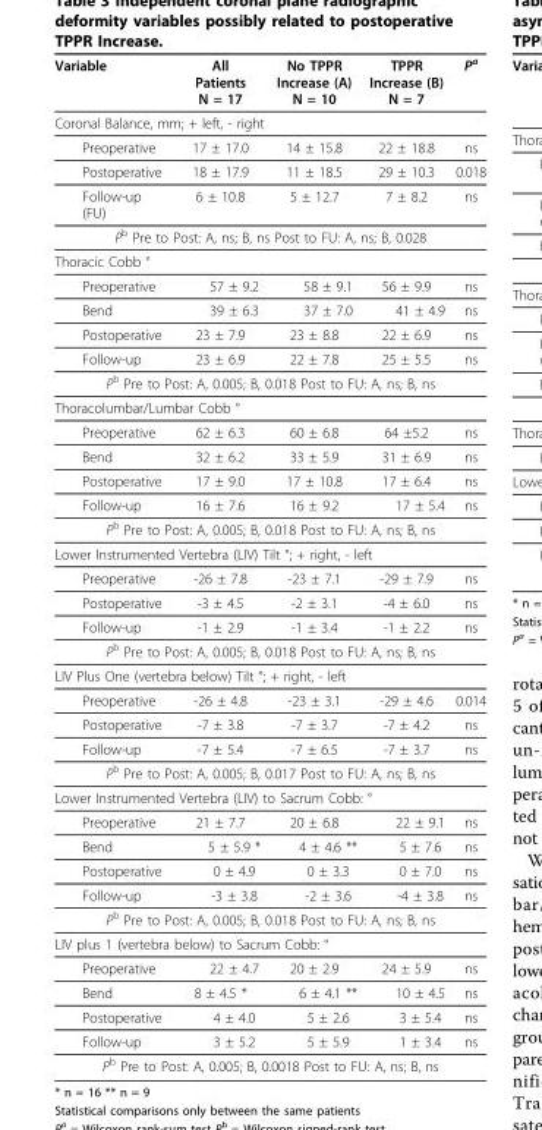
<table><thead><tr><td>Variable</td><td>All Patients N = 17</td><td>No TPPR Increase (A) N = 10</td><td>TPPR Increase (B) N = 7</td><td>P<sup>a</sup></td></tr></thead><tbody><tr><td colspan="5">Coronal Balance, mm; + left, - right</td></tr><tr><td>Preoperative</td><td>17 ± 17.0</td><td>14 ± 15.8</td><td>22 ± 18.8</td><td>ns</td></tr><tr><td>Postoperative</td><td>18 ± 17.9</td><td>11 ± 18.5</td><td>29 ± 10.3</td><td>0.018</td></tr><tr><td>Follow-up (FU)</td><td>6 ± 10.8</td><td>5 ± 12.7</td><td>7 ± 8.2</td><td>ns</td></tr><tr><td colspan="5">P<sup>b</sup> Pre to Post: A, ns; B, ns Post to FU: A, ns; B, 0.028</td></tr><tr><td colspan="5">Thoracic Cobb °</td></tr><tr><td>Preoperative</td><td>57 ± 9.2</td><td>58 ± 9.1</td><td>56 ± 9.9</td><td>ns</td></tr><tr><td>Bend</td><td>39 ± 6.3</td><td>37 ± 7.0</td><td>41 ± 4.9</td><td>ns</td></tr><tr><td>Postoperative</td><td>23 ± 7.9</td><td>23 ± 8.8</td><td>22 ± 6.9</td><td>ns</td></tr><tr><td>Follow-up</td><td>23 ± 6.9</td><td>22 ± 7.8</td><td>25 ± 5.5</td><td>ns</td></tr><tr><td colspan="5">P<sup>b</sup> Pre to Post: A, 0.005; B, 0.018 Post to FU: A, ns; B, ns</td></tr><tr><td colspan="5">Thoracolumbar/Lumbar Cobb °</td></tr><tr><td>Preoperative</td><td>62 ± 6.3</td><td>60 ± 6.8</td><td>64 ±5.2</td><td>ns</td></tr><tr><td>Bend</td><td>32 ± 6.2</td><td>33 ± 5.9</td><td>31 ± 6.9</td><td>ns</td></tr><tr><td>Postoperative</td><td>17 ± 9.0</td><td>17 ± 10.8</td><td>17 ± 6.4</td><td>ns</td></tr><tr><td>Follow-up</td><td>16 ± 7.6</td><td>16 ± 9.2</td><td>17 ± 5.4</td><td>ns</td></tr><tr><td colspan="5">P<sup>b</sup> Pre to Post: A, 0.005; B, 0.018 Post to FU: A, ns; B, ns</td></tr><tr><td colspan="5">Lower Instrumented Vertebra (LIV) Tilt °; + right, - left</td></tr><tr><td>Preoperative</td><td>-26 ± 7.8</td><td>-23 ± 7.1</td><td>-29 ± 7.9</td><td>ns</td></tr><tr><td>Postoperative</td><td>-3 ± 4.5</td><td>-2 ± 3.1</td><td>-4 ± 6.0</td><td>ns</td></tr><tr><td>Follow-up</td><td>-1 ± 2.9</td><td>-1 ± 3.4</td><td>-1 ± 2.2</td><td>ns</td></tr><tr><td colspan="5">P<sup>b</sup> Pre to Post: A, 0.005; B, 0.018 Post to FU: A, ns; B, ns</td></tr><tr><td colspan="5">LIV Plus One (vertebra below) Tilt °; + right, - left</td></tr><tr><td>Preoperative</td><td>-26 ± 4.8</td><td>-23 ± 3.1</td><td>-29 ± 4.6</td><td>0.014</td></tr><tr><td>Postoperative</td><td>-7 ± 3.8</td><td>-7 ± 3.7</td><td>-7 ± 4.2</td><td>ns</td></tr><tr><td>Follow-up</td><td>-7 ± 5.4</td><td>-7 ± 6.5</td><td>-7 ± 3.7</td><td>ns</td></tr><tr><td colspan="5">P<sup>b</sup> Pre to Post: A, 0.005; B, 0.017 Post to FU: A, ns; B, ns</td></tr><tr><td colspan="5">Lower Instrumented Vertebra (LIV) to Sacrum Cobb: °</td></tr><tr><td>Preoperative</td><td>21 ± 7.7</td><td>20 ± 6.8</td><td>22 ± 9.1</td><td>ns</td></tr><tr><td>Bend</td><td>5 ± 5.9 *</td><td>4 ± 4.6 **</td><td>5 ± 7.6</td><td>ns</td></tr><tr><td>Postoperative</td><td>0 ± 4.9</td><td>0 ± 3.3</td><td>0 ± 7.0</td><td>ns</td></tr><tr><td>Follow-up</td><td>-3 ± 3.8</td><td>-2 ± 3.6</td><td>-4 ± 3.8</td><td>ns</td></tr><tr><td colspan="5">P<sup>b</sup> Pre to Post: A, 0.005; B, 0.018 Post to FU: A, ns; B, ns</td></tr><tr><td colspan="5">LIV plus 1 (vertebra below) to Sacrum Cobb: °</td></tr><tr><td>Preoperative</td><td>22 ± 4.7</td><td>20 ± 2.9</td><td>24 ± 5.9</td><td>ns</td></tr><tr><td>Bend</td><td>8 ± 4.5 *</td><td>6 ± 4.1 **</td><td>10 ± 4.5</td><td>ns</td></tr><tr><td>Postoperative</td><td>4 ± 4.0</td><td>5 ± 2.6</td><td>3 ± 5.4</td><td>ns</td></tr><tr><td>Follow-up</td><td>3 ± 5.2</td><td>5 ± 5.9</td><td>1 ± 3.4</td><td>ns</td></tr><tr><td colspan="5">P<sup>b</sup> Pre to Post: A, 0.005; B, 0.0018 Post to FU: A, ns; B, ns</td></tr></tbody></table>